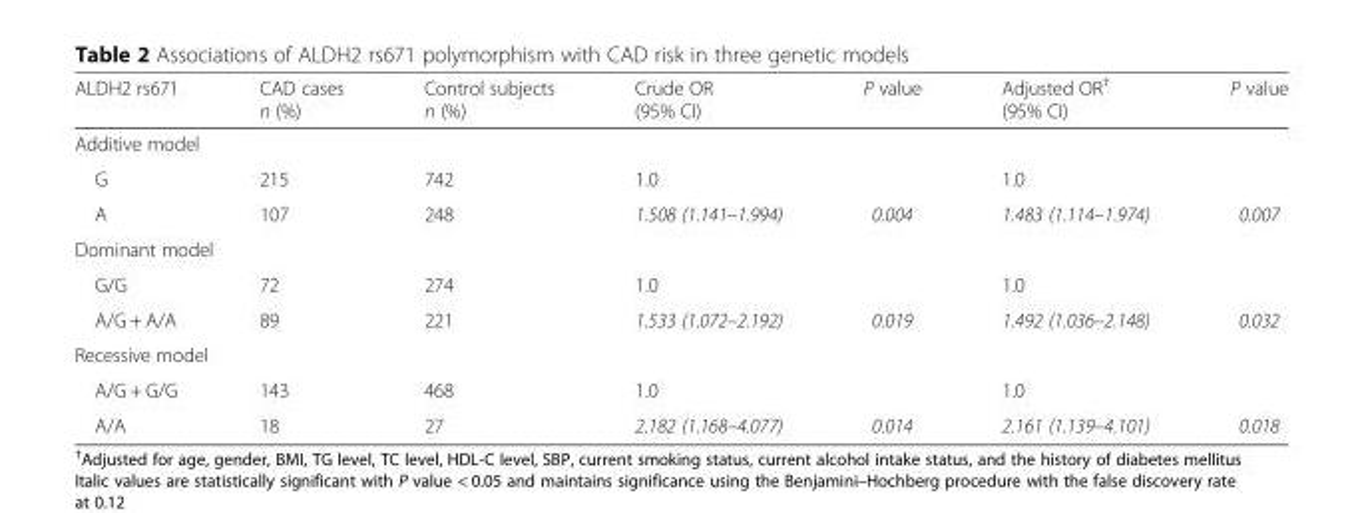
<table><thead><tr><td>ALDH2 rs671</td><td>CAD cases n (%)</td><td>Control subjects n (%)</td><td>Crude OR (95% CI)</td><td>P value</td><td>Adjusted OR<sup>†</sup> (95% CI)</td><td>P value</td></tr></thead><tbody><tr><td colspan="7">Additive model</td></tr><tr><td>G</td><td>215</td><td>742</td><td>1.0</td><td></td><td>1.0</td><td></td></tr><tr><td>A</td><td>107</td><td>248</td><td>1.508 (1.141–1.994)</td><td>0.004</td><td>1.483 (1.114–1.974)</td><td>0.007</td></tr><tr><td colspan="7">Dominant model</td></tr><tr><td>G/G</td><td>72</td><td>274</td><td>1.0</td><td></td><td>1.0</td><td></td></tr><tr><td>A/G + A/A</td><td>89</td><td>221</td><td>1.533 (1.072–2.192)</td><td>0.019</td><td>1.492 (1.036–2.148)</td><td>0.032</td></tr><tr><td colspan="7">Recessive model</td></tr><tr><td>A/G + G/G</td><td>143</td><td>468</td><td>1.0</td><td></td><td>1.0</td><td></td></tr><tr><td>A/A</td><td>18</td><td>27</td><td>2.182 (1.168–4.077)</td><td>0.014</td><td>2.161 (1.139–4.101)</td><td>0.018</td></tr></tbody></table>